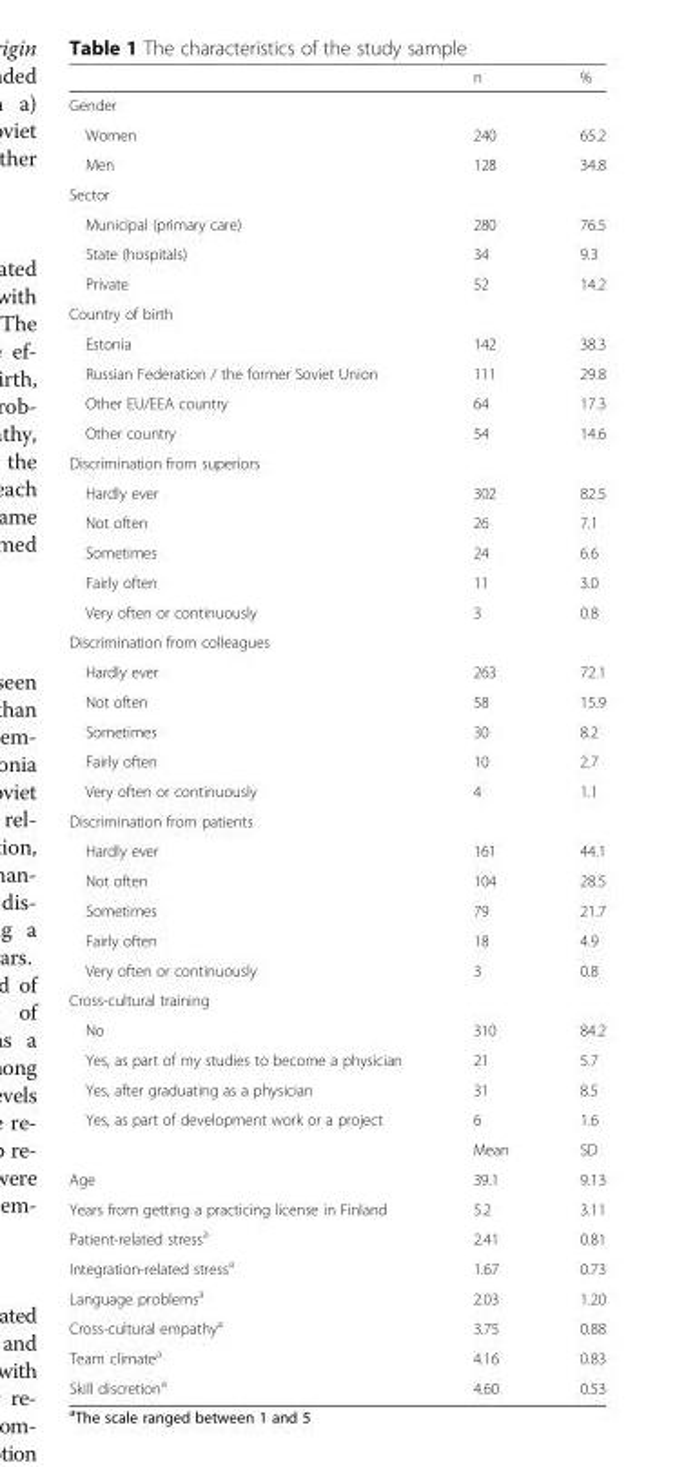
<table><thead><tr><td></td><td>n</td><td>%</td></tr></thead><tbody><tr><td colspan="3">Gender</td></tr><tr><td>Women</td><td>240</td><td>65.2</td></tr><tr><td>Men</td><td>128</td><td>34.8</td></tr><tr><td colspan="3">Sector</td></tr><tr><td>Municipal (primary care)</td><td>280</td><td>76.5</td></tr><tr><td>State (hospitals)</td><td>34</td><td>9.3</td></tr><tr><td>Private</td><td>52</td><td>14.2</td></tr><tr><td colspan="3">Country of birth</td></tr><tr><td>Estonia</td><td>142</td><td>38.3</td></tr><tr><td>Russian Federation / the former Soviet Union</td><td>111</td><td>29.8</td></tr><tr><td>Other EU/EEA country</td><td>64</td><td>17.3</td></tr><tr><td>Other country</td><td>54</td><td>14.6</td></tr><tr><td colspan="3">Discrimination from superiors</td></tr><tr><td>Hardly ever</td><td>302</td><td>82.5</td></tr><tr><td>Not often</td><td>26</td><td>7.1</td></tr><tr><td>Sometimes</td><td>24</td><td>6.6</td></tr><tr><td>Fairly often</td><td>11</td><td>3.0</td></tr><tr><td>Very often or continuously</td><td>3</td><td>0.8</td></tr><tr><td colspan="3">Discrimination from colleagues</td></tr><tr><td>Hardly ever</td><td>263</td><td>72.1</td></tr><tr><td>Not often</td><td>58</td><td>15.9</td></tr><tr><td>Sometimes</td><td>30</td><td>8.2</td></tr><tr><td>Fairly often</td><td>10</td><td>2.7</td></tr><tr><td>Very often or continuously</td><td>4</td><td>1.1</td></tr><tr><td colspan="3">Discrimination from patients</td></tr><tr><td>Hardly ever</td><td>161</td><td>44.1</td></tr><tr><td>Not often</td><td>104</td><td>28.5</td></tr><tr><td>Sometimes</td><td>79</td><td>21.7</td></tr><tr><td>Fairly often</td><td>18</td><td>4.9</td></tr><tr><td>Very often or continuously</td><td>3</td><td>0.8</td></tr><tr><td colspan="3">Cross-cultural training</td></tr><tr><td>No</td><td>310</td><td>84.2</td></tr><tr><td>Yes, as part of my studies to become a physician</td><td>21</td><td>5.7</td></tr><tr><td>Yes, after graduating as a physician</td><td>31</td><td>8.5</td></tr><tr><td rowspan="2">Yes, as part of development work or a project</td><td>6</td><td>1.6</td></tr><tr><td>Mean</td><td>SD</td></tr><tr><td>Age</td><td>39.1</td><td>9.13</td></tr><tr><td>Years from getting a practicing license in Finland</td><td>5.2</td><td>3.11</td></tr><tr><td>Patient-related stress<sup>a</sup></td><td>2.41</td><td>0.81</td></tr><tr><td>Integration-related stress<sup>a</sup></td><td>1.67</td><td>0.73</td></tr><tr><td>Language problems<sup>a</sup></td><td>2.03</td><td>1.20</td></tr><tr><td>Cross-cultural empathy<sup>a</sup></td><td>3.75</td><td>0.88</td></tr><tr><td>Team climate<sup>a</sup></td><td>4.16</td><td>0.83</td></tr><tr><td>Skill discretion<sup>a</sup></td><td>4.60</td><td>0.53</td></tr></tbody></table>